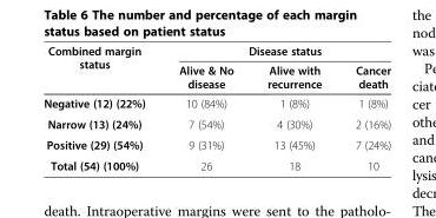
<table><thead><tr><td rowspan="2">Combined margin status</td><td colspan="3">Disease status</td></tr><tr><td>Alive &amp; No disease</td><td>Alive with recurrence</td><td>Cancer death</td></tr></thead><tbody><tr><td>Negative (12) (22%)</td><td>10 (84%)</td><td>1 (8%)</td><td>1 (8%)</td></tr><tr><td>Narrow (13) (24%)</td><td>7 (54%)</td><td>4 (30%)</td><td>2 (16%)</td></tr><tr><td>Positive (29) (54%)</td><td>9 (31%)</td><td>13 (45%)</td><td>7 (24%)</td></tr><tr><td>Total (54) (100%)</td><td>26</td><td>18</td><td>10</td></tr></tbody></table>